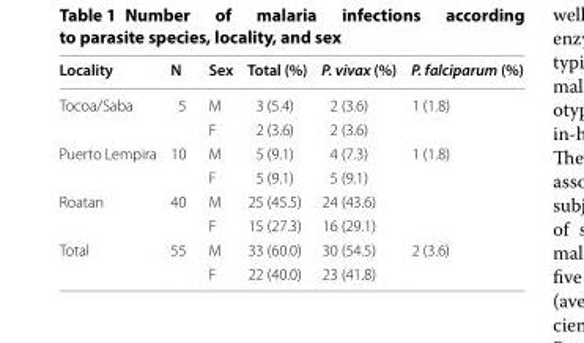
<table><thead><tr><td>Locality</td><td>N</td><td>Sex</td><td>Total (%)</td><td>P. vivax (%)</td><td>P. falciparum (%)</td></tr></thead><tbody><tr><td rowspan="2">Tocoa/Saba</td><td>5</td><td>M</td><td>3 (5.4)</td><td>2 (3.6)</td><td>1 (1.8)</td></tr><tr><td></td><td>F</td><td>2 (3.6)</td><td>2 (3.6)</td><td></td></tr><tr><td rowspan="2">Puerto Lempira</td><td>10</td><td>M</td><td>5 (9.1)</td><td>4 (7.3)</td><td>1 (1.8)</td></tr><tr><td></td><td>F</td><td>5 (9.1)</td><td>5 (9.1)</td><td></td></tr><tr><td rowspan="2">Roatan</td><td>40</td><td>M</td><td>25 (45.5)</td><td>24 (43.6)</td><td></td></tr><tr><td></td><td>F</td><td>15 (27.3)</td><td>16 (29.1)</td><td></td></tr><tr><td rowspan="2">Total</td><td>55</td><td>M</td><td>33 (60.0)</td><td>30 (54.5)</td><td>2 (3.6)</td></tr><tr><td></td><td>F</td><td>22 (40.0)</td><td>23 (41.8)</td><td></td></tr></tbody></table>